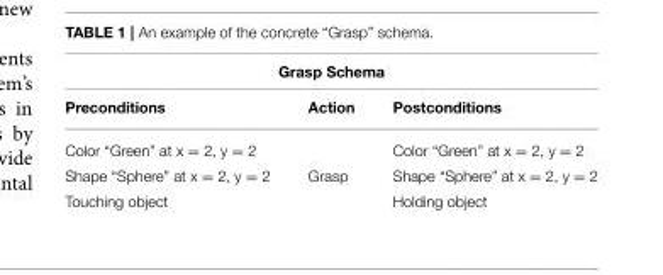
<table><thead><tr><td colspan="3">Grasp Schema</td></tr><tr><td>Preconditions</td><td>Action</td><td>Postconditions</td></tr></thead><tbody><tr><td>Color “Green” at x = 2, y = 2</td><td></td><td>Color “Green” at x = 2, y = 2</td></tr><tr><td>Shape “Sphere” at x = 2, y = 2</td><td>Grasp</td><td>Shape “Sphere” at x = 2, y = 2</td></tr><tr><td>Touching object</td><td></td><td>Holding object</td></tr></tbody></table>